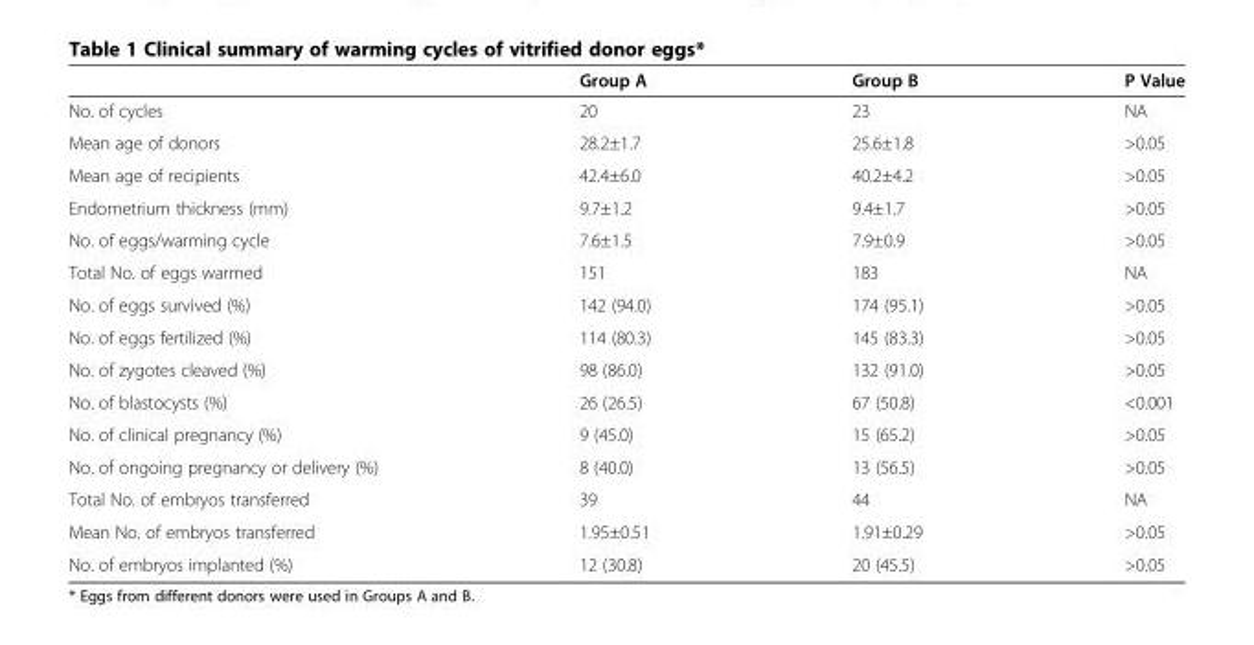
<table><thead><tr><td></td><td>Group A</td><td>Group B</td><td>P Value</td></tr></thead><tbody><tr><td>No. of cycles</td><td>20</td><td>23</td><td>NA</td></tr><tr><td>Mean age of donors</td><td>28.2±1.7</td><td>25.6±1.8</td><td>&gt;0.05</td></tr><tr><td>Mean age of recipients</td><td>42.4±6.0</td><td>40.2±4.2</td><td>&gt;0.05</td></tr><tr><td>Endometrium thickness (mm)</td><td>9.7±1.2</td><td>9.4±1.7</td><td>&gt;0.05</td></tr><tr><td>No. of eggs/warming cycle</td><td>7.6±1.5</td><td>7.9±0.9</td><td>&gt;0.05</td></tr><tr><td>Total No. of eggs warmed</td><td>151</td><td>183</td><td>NA</td></tr><tr><td>No. of eggs survived (%)</td><td>142 (94.0)</td><td>174 (95.1)</td><td>&gt;0.05</td></tr><tr><td>No. of eggs fertilized (%)</td><td>114 (80.3)</td><td>145 (83.3)</td><td>&gt;0.05</td></tr><tr><td>No. of zygotes cleaved (%)</td><td>98 (86.0)</td><td>132 (91.0)</td><td>&gt;0.05</td></tr><tr><td>No. of blastocysts (%)</td><td>26 (26.5)</td><td>67 (50.8)</td><td>&lt;0.001</td></tr><tr><td>No. of clinical pregnancy (%)</td><td>9 (45.0)</td><td>15 (65.2)</td><td>&gt;0.05</td></tr><tr><td>No. of ongoing pregnancy or delivery (%)</td><td>8 (40.0)</td><td>13 (56.5)</td><td>&gt;0.05</td></tr><tr><td>Total No. of embryos transferred</td><td>39</td><td>44</td><td>NA</td></tr><tr><td>Mean No. of embryos transferred</td><td>1.95±0.51</td><td>1.91±0.29</td><td>&gt;0.05</td></tr><tr><td>No. of embryos implanted (%)</td><td>12 (30.8)</td><td>20 (45.5)</td><td>&gt;0.05</td></tr></tbody></table>